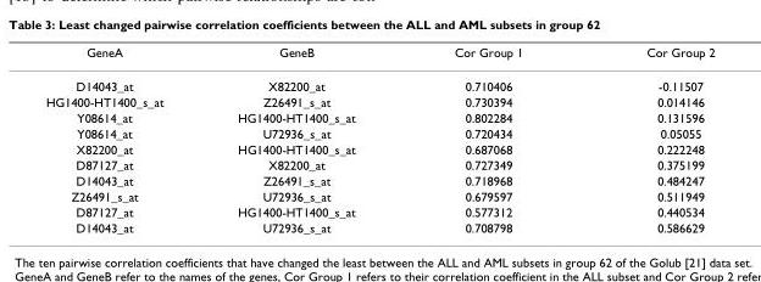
<table><thead><tr><td>GeneA</td><td>GeneB</td><td>Cor Group 1</td><td>Cor Group 2</td></tr></thead><tbody><tr><td>D14043_at</td><td>X82200_at</td><td>0.710406</td><td>-0.11507</td></tr><tr><td>HG1400-HT1400_s_at</td><td>Z26491_s_at</td><td>0.730394</td><td>0.014146</td></tr><tr><td>Y08614_at</td><td>HG1400-HT1400_s_at</td><td>0.802284</td><td>0.131596</td></tr><tr><td>Y08614_at</td><td>U72936_s_at</td><td>0.720434</td><td>0.05055</td></tr><tr><td>X82200_at</td><td>HG1400-HT1400_s_at</td><td>0.687068</td><td>0.222248</td></tr><tr><td>D87127_at</td><td>X82200_at</td><td>0.727349</td><td>0.375199</td></tr><tr><td>D14043_at</td><td>Z26491_s_at</td><td>0.718968</td><td>0.484247</td></tr><tr><td>Z26491_s_at</td><td>U72936_s_at</td><td>0.679597</td><td>0.511949</td></tr><tr><td>D87127_at</td><td>HG1400-HT1400_s_at</td><td>0.577312</td><td>0.440534</td></tr><tr><td>D14043_at</td><td>U72936_s_at</td><td>0.708798</td><td>0.586629</td></tr></tbody></table>